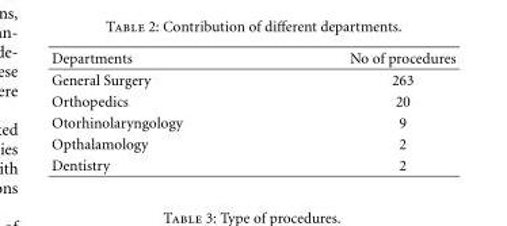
<table><thead><tr><td>Departments</td><td>No of procedures</td></tr></thead><tbody><tr><td>General Surgery</td><td>263</td></tr><tr><td>Orthopedics</td><td>20</td></tr><tr><td>Otorhinolaryngology</td><td>9</td></tr><tr><td>Opthalamology</td><td>2</td></tr><tr><td>Dentistry</td><td>2</td></tr></tbody></table>